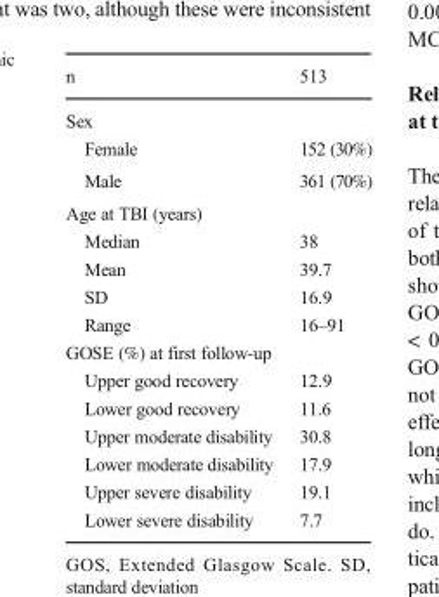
<table><thead><tr><td>n</td><td>513</td></tr></thead><tbody><tr><td colspan="2">Sex</td></tr><tr><td>Female</td><td>152 (30%)</td></tr><tr><td>Male</td><td>361 (70%)</td></tr><tr><td colspan="2">Age at TBI (years)</td></tr><tr><td>Median</td><td>38</td></tr><tr><td>Mean</td><td>39.7</td></tr><tr><td>SD</td><td>16.9</td></tr><tr><td>Range</td><td>16–91</td></tr><tr><td colspan="2">GOSE (%) at first follow-up</td></tr><tr><td>Upper good recovery</td><td>12.9</td></tr><tr><td>Lower good recovery</td><td>11.6</td></tr><tr><td>Upper moderate disability</td><td>30.8</td></tr><tr><td>Lower moderate disability</td><td>17.9</td></tr><tr><td>Upper severe disability</td><td>19.1</td></tr><tr><td>Lower severe disability</td><td>7.7</td></tr></tbody></table>